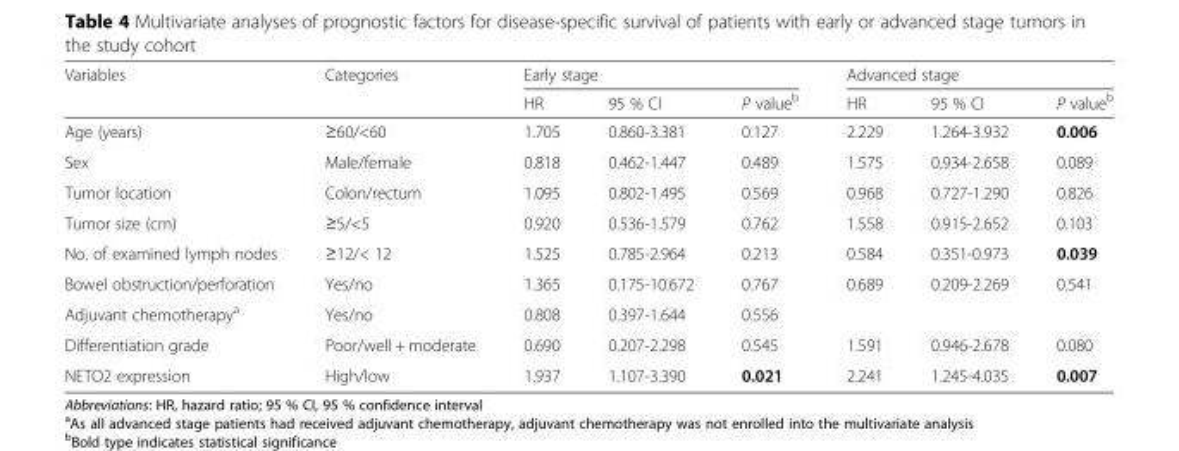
<table><thead><tr><td rowspan="2">Variables</td><td rowspan="2">Categories</td><td colspan="3">Early stage</td><td colspan="3">Advanced stage</td></tr><tr><td>HR</td><td>95 % CI</td><td>P value<sup>b</sup></td><td>HR</td><td>95 % CI</td><td>P value<sup>b</sup></td></tr></thead><tbody><tr><td>Age (years)</td><td>≥60/&lt;60</td><td>1.705</td><td>0.860-3.381</td><td>0.127</td><td>2.229</td><td>1.264-3.932</td><td>0.006</td></tr><tr><td>Sex</td><td>Male/female</td><td>0.818</td><td>0.462-1.447</td><td>0.489</td><td>1.575</td><td>0.934-2.658</td><td>0.089</td></tr><tr><td>Tumor location</td><td>Colon/rectum</td><td>1.095</td><td>0.802-1.495</td><td>0.569</td><td>0.968</td><td>0.727-1.290</td><td>0.826</td></tr><tr><td>Tumor size (cm)</td><td>≥5/&lt;5</td><td>0.920</td><td>0.536-1.579</td><td>0.762</td><td>1.558</td><td>0.915-2.652</td><td>0.103</td></tr><tr><td>No. of examined lymph nodes</td><td>≥12/&lt; 12</td><td>1.525</td><td>0.785-2.964</td><td>0.213</td><td>0.584</td><td>0.351-0.973</td><td>0.039</td></tr><tr><td>Bowel obstruction/perforation</td><td>Yes/no</td><td>1.365</td><td>0.175-10.672</td><td>0.767</td><td>0.689</td><td>0.209-2.269</td><td>0.541</td></tr><tr><td>Adjuvant chemotherapy<sup>a</sup></td><td>Yes/no</td><td>0.808</td><td>0.397-1.644</td><td>0.556</td><td></td><td></td><td></td></tr><tr><td>Differentiation grade</td><td>Poor/well + moderate</td><td>0.690</td><td>0.207-2.298</td><td>0.545</td><td>1.591</td><td>0.946-2.678</td><td>0.080</td></tr><tr><td>NETO2 expression</td><td>High/low</td><td>1.937</td><td>1.107-3.390</td><td>0.021</td><td>2.241</td><td>1.245-4.035</td><td>0.007</td></tr></tbody></table>